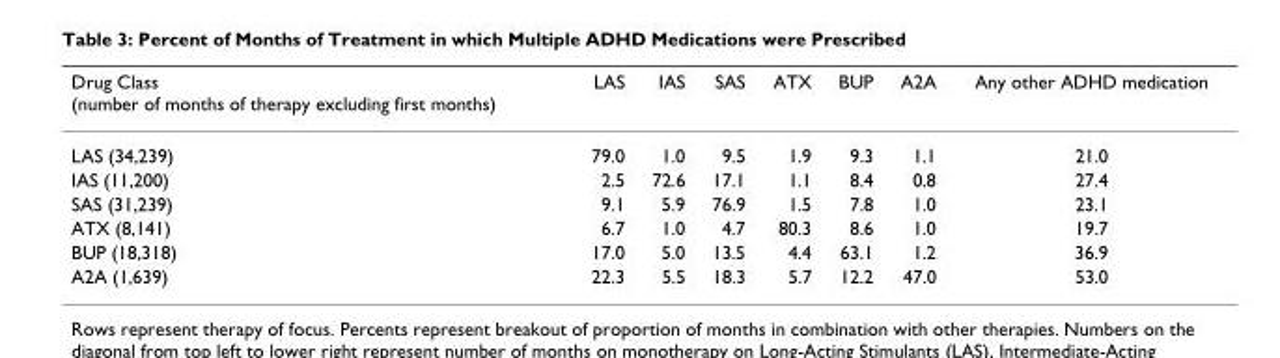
<table><thead><tr><td>Drug Class (number of months of therapy excluding first months)</td><td>LAS</td><td>IAS</td><td>SAS</td><td>ATX</td><td>BUP</td><td>A2A</td><td>Any other ADHD medication</td></tr></thead><tbody><tr><td>LAS (34,239)</td><td>79.0</td><td>1.0</td><td>9.5</td><td>1.9</td><td>9.3</td><td>1.1</td><td>21.0</td></tr><tr><td>IAS (11,200)</td><td>2.5</td><td>72.6</td><td>17.1</td><td>1.1</td><td>8.4</td><td>0.8</td><td>27.4</td></tr><tr><td>SAS (31,239)</td><td>9.1</td><td>5.9</td><td>76.9</td><td>1.5</td><td>7.8</td><td>1.0</td><td>23.1</td></tr><tr><td>ATX (8,141)</td><td>6.7</td><td>1.0</td><td>4.7</td><td>80.3</td><td>8.6</td><td>1.0</td><td>19.7</td></tr><tr><td>BUP (18,318)</td><td>17.0</td><td>5.0</td><td>13.5</td><td>4.4</td><td>63.1</td><td>1.2</td><td>36.9</td></tr><tr><td>A2A (1,639)</td><td>22.3</td><td>5.5</td><td>18.3</td><td>5.7</td><td>12.2</td><td>47.0</td><td>53.0</td></tr></tbody></table>